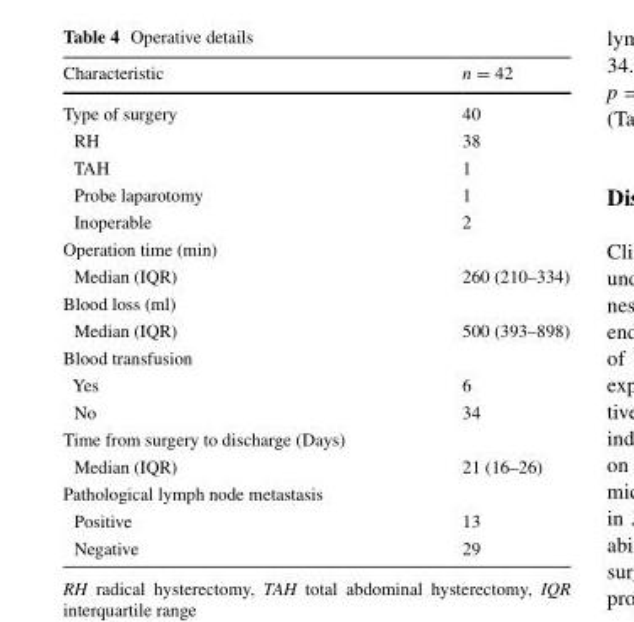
<table><thead><tr><td>Characteristic</td><td>n = 42</td></tr></thead><tbody><tr><td>Type of surgery</td><td>40</td></tr><tr><td>RH</td><td>38</td></tr><tr><td>TAH</td><td>1</td></tr><tr><td>Probe laparotomy</td><td>1</td></tr><tr><td>Inoperable</td><td>2</td></tr><tr><td colspan="2">Operation time (min)</td></tr><tr><td>Median (IQR)</td><td>260 (210–334)</td></tr><tr><td colspan="2">Blood loss (ml)</td></tr><tr><td>Median (IQR)</td><td>500 (393–898)</td></tr><tr><td colspan="2">Blood transfusion</td></tr><tr><td>Yes</td><td>6</td></tr><tr><td>No</td><td>34</td></tr><tr><td colspan="2">Time from surgery to discharge (Days)</td></tr><tr><td>Median (IQR)</td><td>21 (16–26)</td></tr><tr><td colspan="2">Pathological lymph node metastasis</td></tr><tr><td>Positive</td><td>13</td></tr><tr><td>Negative</td><td>29</td></tr></tbody></table>